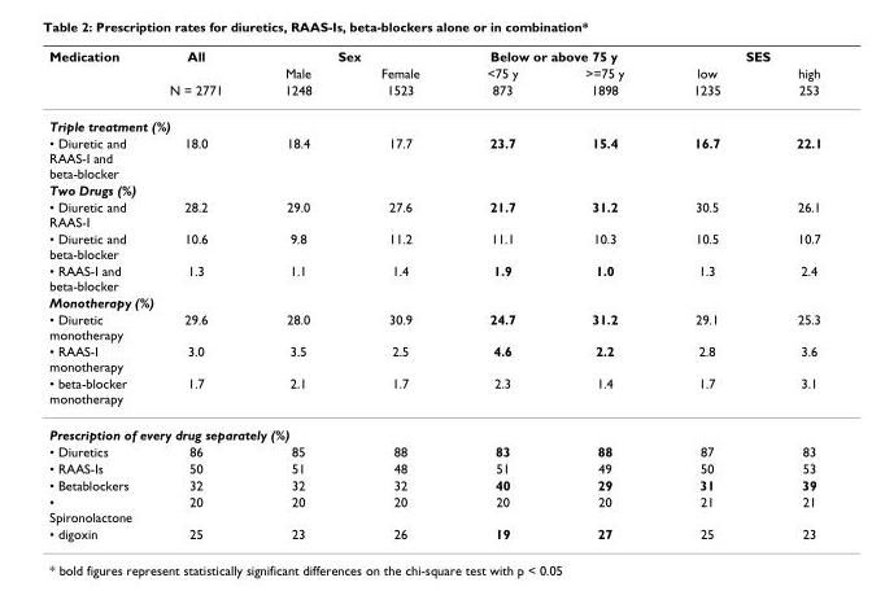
<table><thead><tr><td rowspan="3">Medication</td><td rowspan="3">All N = 2771</td><td colspan="2">Sex</td><td colspan="2">Below or above 75 y</td><td colspan="2">SES</td></tr><tr><td rowspan="2">Male 1248</td><td rowspan="2">Female 1523</td><td rowspan="2">&lt;75 y 873</td><td rowspan="2">&gt;=75 y 1898</td><td rowspan="2">low 1235</td><td rowspan="2">high 253</td></tr><tr></tr></thead><tbody><tr><td colspan="8">Triple treatment (%)</td></tr><tr><td>• Diuretic and RAAS-I and beta-blocker</td><td>18.0</td><td>18.4</td><td>17.7</td><td>23.7</td><td>15.4</td><td>16.7</td><td>22.1</td></tr><tr><td colspan="8">Two Drugs (%)</td></tr><tr><td>• Diuretic and RAAS-I</td><td>28.2</td><td>29.0</td><td>27.6</td><td>21.7</td><td>31.2</td><td>30.5</td><td>26.1</td></tr><tr><td>• Diuretic and beta-blocker</td><td>10.6</td><td>9.8</td><td>11.2</td><td>11.1</td><td>10.3</td><td>10.5</td><td>10.7</td></tr><tr><td>• RAAS-I and beta-blocker</td><td>1.3</td><td>1.1</td><td>1.4</td><td>1.9</td><td>1.0</td><td>1.3</td><td>2.4</td></tr><tr><td colspan="8">Monotherapy (%)</td></tr><tr><td>• Diuretic monotherapy</td><td>29.6</td><td>28.0</td><td>30.9</td><td>24.7</td><td>31.2</td><td>29.1</td><td>25.3</td></tr><tr><td>• RAAS-I monotherapy</td><td>3.0</td><td>3.5</td><td>2.5</td><td>4.6</td><td>2.2</td><td>2.8</td><td>3.6</td></tr><tr><td>• beta-blocker monotherapy</td><td>1.7</td><td>2.1</td><td>1.7</td><td>2.3</td><td>1.4</td><td>1.7</td><td>3.1</td></tr><tr><td colspan="8">Prescription of every drug separately (%)</td></tr><tr><td>• Diuretics</td><td>86</td><td>85</td><td>88</td><td>83</td><td>88</td><td>87</td><td>83</td></tr><tr><td>• RAAS-Is</td><td>50</td><td>51</td><td>48</td><td>51</td><td>49</td><td>50</td><td>53</td></tr><tr><td>• Betablockers</td><td>32</td><td>32</td><td>32</td><td>40</td><td>29</td><td>31</td><td>39</td></tr><tr><td>• Spironolactone</td><td>20</td><td>20</td><td>20</td><td>20</td><td>20</td><td>21</td><td>21</td></tr><tr><td>• digoxin</td><td>25</td><td>23</td><td>26</td><td>19</td><td>27</td><td>25</td><td>23</td></tr></tbody></table>